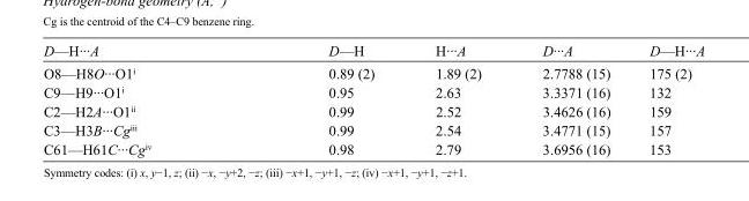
<table><tbody><tr><td>D—H···A</td><td>D—H</td><td>H···A</td><td>D···A</td><td>D—H···A</td></tr><tr><td>O8—H8O···O1<sup>i</sup></td><td>0.89 (2)</td><td>1.89 (2)</td><td>2.7788 (15)</td><td>175 (2)</td></tr><tr><td>C9—H9···O1<sup>i</sup></td><td>0.95</td><td>2.63</td><td>3.3371 (16)</td><td>132</td></tr><tr><td>C2—H2A···O1<sup>ii</sup></td><td>0.99</td><td>2.52</td><td>3.4626 (16)</td><td>159</td></tr><tr><td>C3—H3B···Cg<sup>iii</sup></td><td>0.99</td><td>2.54</td><td>3.4771 (15)</td><td>157</td></tr><tr><td>C61—H61C···Cg<sup>iv</sup></td><td>0.98</td><td>2.79</td><td>3.6956 (16)</td><td>153</td></tr></tbody></table>